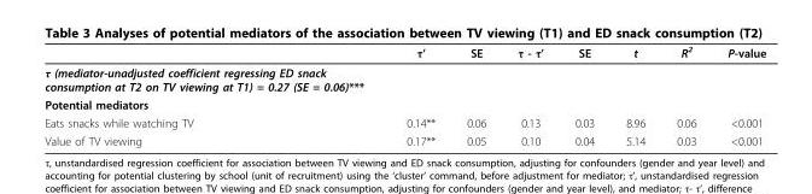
<table><thead><tr><td></td><td>τ’</td><td>SE</td><td>τ - τ’</td><td>SE</td><td>t</td><td>R<sup>2</sup></td><td>P-value</td></tr></thead><tbody><tr><td colspan="8">τ (mediator-unadjusted coefficient regressing ED snack consumption at T2 on TV viewing at T1) = 0.27 (SE = 0.06)***</td></tr><tr><td colspan="8">Potential mediators</td></tr><tr><td>Eats snacks while watching TV</td><td>0.14**</td><td>0.06</td><td>0.13</td><td>0.03</td><td>8.96</td><td>0.06</td><td>&lt;0.001</td></tr><tr><td>Value of TV viewing</td><td>0.17**</td><td>0.05</td><td>0.10</td><td>0.04</td><td>5.14</td><td>0.03</td><td>&lt;0.001</td></tr></tbody></table>